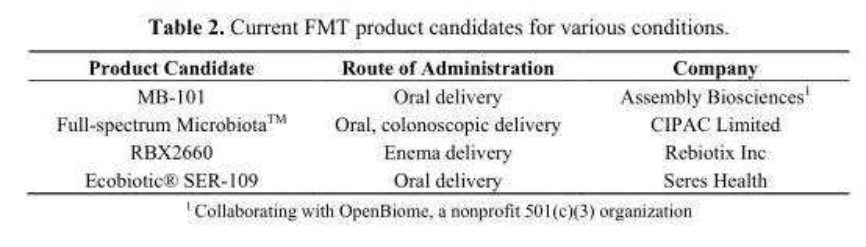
<table><thead><tr><td>Product Candidate</td><td>Route of Administration</td><td>Company</td></tr></thead><tbody><tr><td>MB-101</td><td>Oral delivery</td><td>Assembly Biosciences<sup>1</sup></td></tr><tr><td>Full-spectrum Microbiota<sup>TM</sup></td><td>Oral, colonoscopic delivery</td><td>CIPAC Limited</td></tr><tr><td>RBX2660</td><td>Enema delivery</td><td>Rebiotix Inc</td></tr><tr><td>Ecobiotic® SER-109</td><td>Oral delivery</td><td>Seres Health</td></tr></tbody></table>